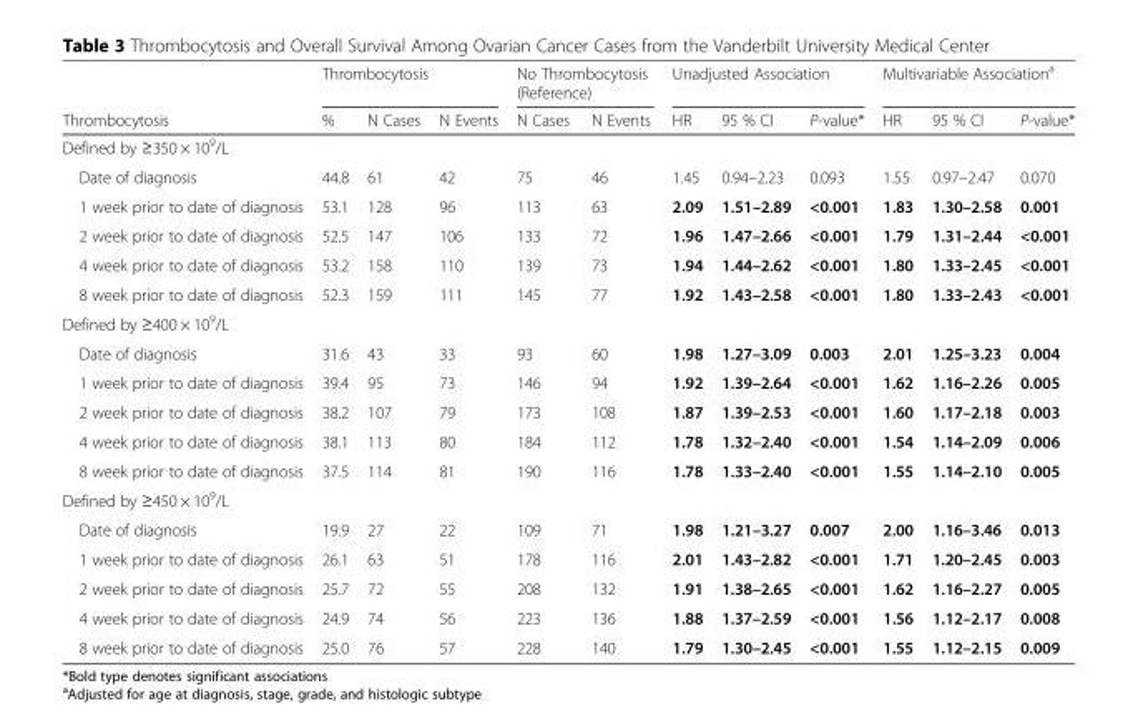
<table><thead><tr><td rowspan="2">Thrombocytosis</td><td colspan="3">Thrombocytosis</td><td colspan="2">No Thrombocytosis (Reference)</td><td colspan="3">Unadjusted Association</td><td colspan="3">Multivariable Association<sup>a</sup></td></tr><tr><td>%</td><td>N Cases</td><td>N Events</td><td>N Cases</td><td>N Events</td><td>HR</td><td>95 % CI</td><td>P-value*</td><td>HR</td><td>95 % CI</td><td>P-value*</td></tr></thead><tbody><tr><td colspan="12">Defined by ≥350 × 10<sup>9</sup>/L</td></tr><tr><td>Date of diagnosis</td><td>44.8</td><td>61</td><td>42</td><td>75</td><td>46</td><td>1.45</td><td>0.94–2.23</td><td>0.093</td><td>1.55</td><td>0.97–2.47</td><td>0.070</td></tr><tr><td>1 week prior to date of diagnosis</td><td>53.1</td><td>128</td><td>96</td><td>113</td><td>63</td><td>2.09</td><td>1.51–2.89</td><td>&lt;0.001</td><td>1.83</td><td>1.30–2.58</td><td>0.001</td></tr><tr><td>2 week prior to date of diagnosis</td><td>52.5</td><td>147</td><td>106</td><td>133</td><td>72</td><td>1.96</td><td>1.47–2.66</td><td>&lt;0.001</td><td>1.79</td><td>1.31–2.44</td><td>&lt;0.001</td></tr><tr><td>4 week prior to date of diagnosis</td><td>53.2</td><td>158</td><td>110</td><td>139</td><td>73</td><td>1.94</td><td>1.44–2.62</td><td>&lt;0.001</td><td>1.80</td><td>1.33–2.45</td><td>&lt;0.001</td></tr><tr><td>8 week prior to date of diagnosis</td><td>52.3</td><td>159</td><td>111</td><td>145</td><td>77</td><td>1.92</td><td>1.43–2.58</td><td>&lt;0.001</td><td>1.80</td><td>1.33–2.43</td><td>&lt;0.001</td></tr><tr><td colspan="12">Defined by ≥400 × 10<sup>9</sup>/L</td></tr><tr><td>Date of diagnosis</td><td>31.6</td><td>43</td><td>33</td><td>93</td><td>60</td><td>1.98</td><td>1.27–3.09</td><td>0.003</td><td>2.01</td><td>1.25–3.23</td><td>0.004</td></tr><tr><td>1 week prior to date of diagnosis</td><td>39.4</td><td>95</td><td>73</td><td>146</td><td>94</td><td>1.92</td><td>1.39–2.64</td><td>&lt;0.001</td><td>1.62</td><td>1.16–2.26</td><td>0.005</td></tr><tr><td>2 week prior to date of diagnosis</td><td>38.2</td><td>107</td><td>79</td><td>173</td><td>108</td><td>1.87</td><td>1.39–2.53</td><td>&lt;0.001</td><td>1.60</td><td>1.17–2.18</td><td>0.003</td></tr><tr><td>4 week prior to date of diagnosis</td><td>38.1</td><td>113</td><td>80</td><td>184</td><td>112</td><td>1.78</td><td>1.32–2.40</td><td>&lt;0.001</td><td>1.54</td><td>1.14–2.09</td><td>0.006</td></tr><tr><td>8 week prior to date of diagnosis</td><td>37.5</td><td>114</td><td>81</td><td>190</td><td>116</td><td>1.78</td><td>1.33–2.40</td><td>&lt;0.001</td><td>1.55</td><td>1.14–2.10</td><td>0.005</td></tr><tr><td colspan="12">Defined by ≥450 × 10<sup>9</sup>/L</td></tr><tr><td>Date of diagnosis</td><td>19.9</td><td>27</td><td>22</td><td>109</td><td>71</td><td>1.98</td><td>1.21–3.27</td><td>0.007</td><td>2.00</td><td>1.16–3.46</td><td>0.013</td></tr><tr><td>1 week prior to date of diagnosis</td><td>26.1</td><td>63</td><td>51</td><td>178</td><td>116</td><td>2.01</td><td>1.43–2.82</td><td>&lt;0.001</td><td>1.71</td><td>1.20–2.45</td><td>0.003</td></tr><tr><td>2 week prior to date of diagnosis</td><td>25.7</td><td>72</td><td>55</td><td>208</td><td>132</td><td>1.91</td><td>1.38–2.65</td><td>&lt;0.001</td><td>1.62</td><td>1.16–2.27</td><td>0.005</td></tr><tr><td>4 week prior to date of diagnosis</td><td>24.9</td><td>74</td><td>56</td><td>223</td><td>136</td><td>1.88</td><td>1.37–2.59</td><td>&lt;0.001</td><td>1.56</td><td>1.12–2.17</td><td>0.008</td></tr><tr><td>8 week prior to date of diagnosis</td><td>25.0</td><td>76</td><td>57</td><td>228</td><td>140</td><td>1.79</td><td>1.30–2.45</td><td>&lt;0.001</td><td>1.55</td><td>1.12–2.15</td><td>0.009</td></tr></tbody></table>